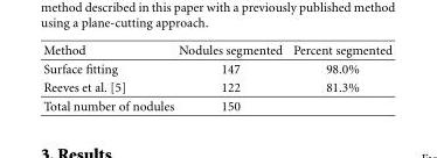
<table><thead><tr><td>Method</td><td>Nodules segmented</td><td>Percent segmented</td></tr></thead><tbody><tr><td>Surface fitting</td><td>147</td><td>98.0%</td></tr><tr><td>Reeves et al. [5]</td><td>122</td><td>81.3%</td></tr><tr><td>Total number of nodules</td><td>150</td><td></td></tr></tbody></table>